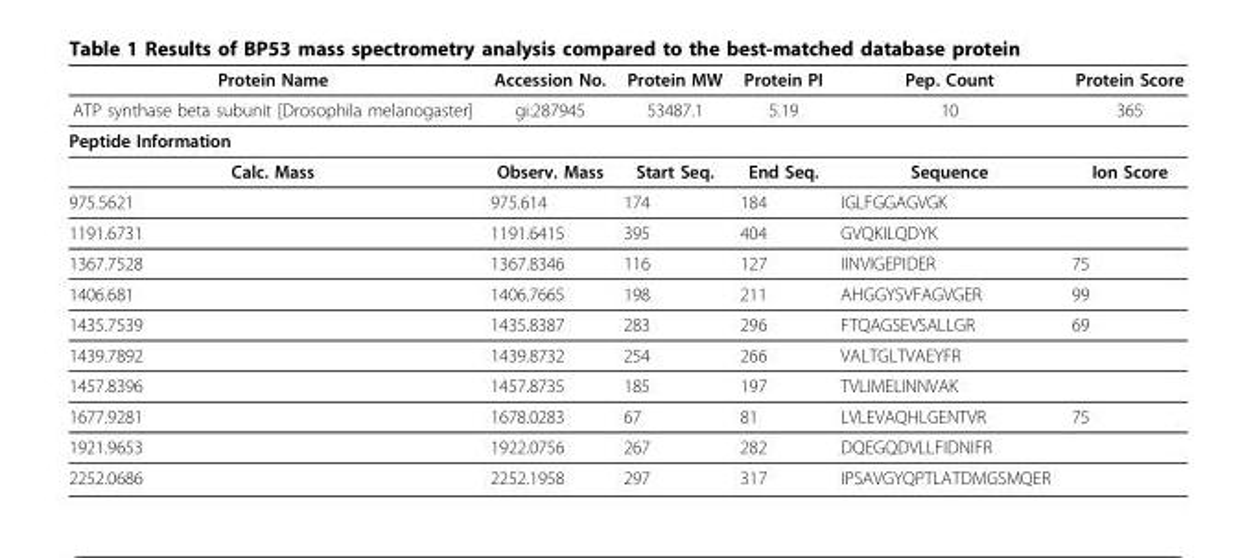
<table><thead><tr><td>Protein Name</td><td>Accession No.</td><td>Protein MW</td><td>Protein PI</td><td>Pep. Count</td><td>Protein Score</td></tr></thead><tbody><tr><td>ATP synthase beta subunit [Drosophila melanogaster]</td><td>gi:287945</td><td>53487.1</td><td>5.19</td><td>10</td><td>365</td></tr><tr><td colspan="6">Peptide Information</td></tr><tr><td>Calc. Mass</td><td>Observ. Mass</td><td>Start Seq.</td><td>End Seq.</td><td>Sequence</td><td>Ion Score</td></tr><tr><td>975.5621</td><td>975.614</td><td>174</td><td>184</td><td>IGLFGGAGVGK</td><td></td></tr><tr><td>1191.6731</td><td>1191.6415</td><td>395</td><td>404</td><td>GVQKILQDYK</td><td></td></tr><tr><td>1367.7528</td><td>1367.8346</td><td>116</td><td>127</td><td>IINVIGEPIDER</td><td>75</td></tr><tr><td>1406.681</td><td>1406.7665</td><td>198</td><td>211</td><td>AHGGYSVFAGVGER</td><td>99</td></tr><tr><td>1435.7539</td><td>1435.8387</td><td>283</td><td>296</td><td>FTQAGSEVSALLGR</td><td>69</td></tr><tr><td>1439.7892</td><td>1439.8732</td><td>254</td><td>266</td><td>VALTGLTVAEYFR</td><td></td></tr><tr><td>1457.8396</td><td>1457.8735</td><td>185</td><td>197</td><td>TVLIMELINNVAK</td><td></td></tr><tr><td>1677.9281</td><td>1678.0283</td><td>67</td><td>81</td><td>LVLEVAQHLGENTVR</td><td>75</td></tr><tr><td>1921.9653</td><td>1922.0756</td><td>267</td><td>282</td><td>DQEGQDVLLFIDNIFR</td><td></td></tr><tr><td>2252.0686</td><td>2252.1958</td><td>297</td><td>317</td><td>IPSAVGYQPTLATDMGSMQER</td><td></td></tr></tbody></table>